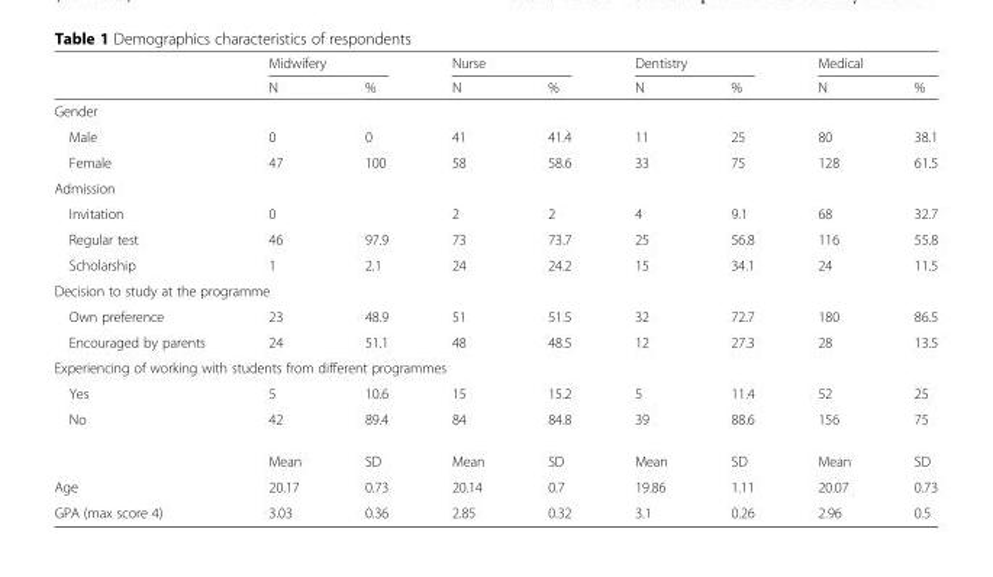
<table><thead><tr><td rowspan="2"></td><td colspan="2">Midwifery</td><td colspan="2">Nurse</td><td colspan="2">Dentistry</td><td colspan="2">Medical</td></tr><tr><td>N</td><td>%</td><td>N</td><td>%</td><td>N</td><td>%</td><td>N</td><td>%</td></tr></thead><tbody><tr><td colspan="9">Gender</td></tr><tr><td>Male</td><td>0</td><td>0</td><td>41</td><td>41.4</td><td>11</td><td>25</td><td>80</td><td>38.1</td></tr><tr><td>Female</td><td>47</td><td>100</td><td>58</td><td>58.6</td><td>33</td><td>75</td><td>128</td><td>61.5</td></tr><tr><td colspan="9">Admission</td></tr><tr><td>Invitation</td><td>0</td><td></td><td>2</td><td>2</td><td>4</td><td>9.1</td><td>68</td><td>32.7</td></tr><tr><td>Regular test</td><td>46</td><td>97.9</td><td>73</td><td>73.7</td><td>25</td><td>56.8</td><td>116</td><td>55.8</td></tr><tr><td>Scholarship</td><td>1</td><td>2.1</td><td>24</td><td>24.2</td><td>15</td><td>34.1</td><td>24</td><td>11.5</td></tr><tr><td colspan="9">Decision to study at the programme</td></tr><tr><td>Own preference</td><td>23</td><td>48.9</td><td>51</td><td>51.5</td><td>32</td><td>72.7</td><td>180</td><td>86.5</td></tr><tr><td>Encouraged by parents</td><td>24</td><td>51.1</td><td>48</td><td>48.5</td><td>12</td><td>27.3</td><td>28</td><td>13.5</td></tr><tr><td colspan="9">Experiencing of working with students from different programmes</td></tr><tr><td>Yes</td><td>5</td><td>10.6</td><td>15</td><td>15.2</td><td>5</td><td>11.4</td><td>52</td><td>25</td></tr><tr><td rowspan="2">No</td><td>42</td><td>89.4</td><td>84</td><td>84.8</td><td>39</td><td>88.6</td><td>156</td><td>75</td></tr><tr><td>Mean</td><td>SD</td><td>Mean</td><td>SD</td><td>Mean</td><td>SD</td><td>Mean</td><td>SD</td></tr><tr><td>Age</td><td>20.17</td><td>0.73</td><td>20.14</td><td>0.7</td><td>19.86</td><td>1.11</td><td>20.07</td><td>0.73</td></tr><tr><td>GPA (max score 4)</td><td>3.03</td><td>0.36</td><td>2.85</td><td>0.32</td><td>3.1</td><td>0.26</td><td>2.96</td><td>0.5</td></tr></tbody></table>